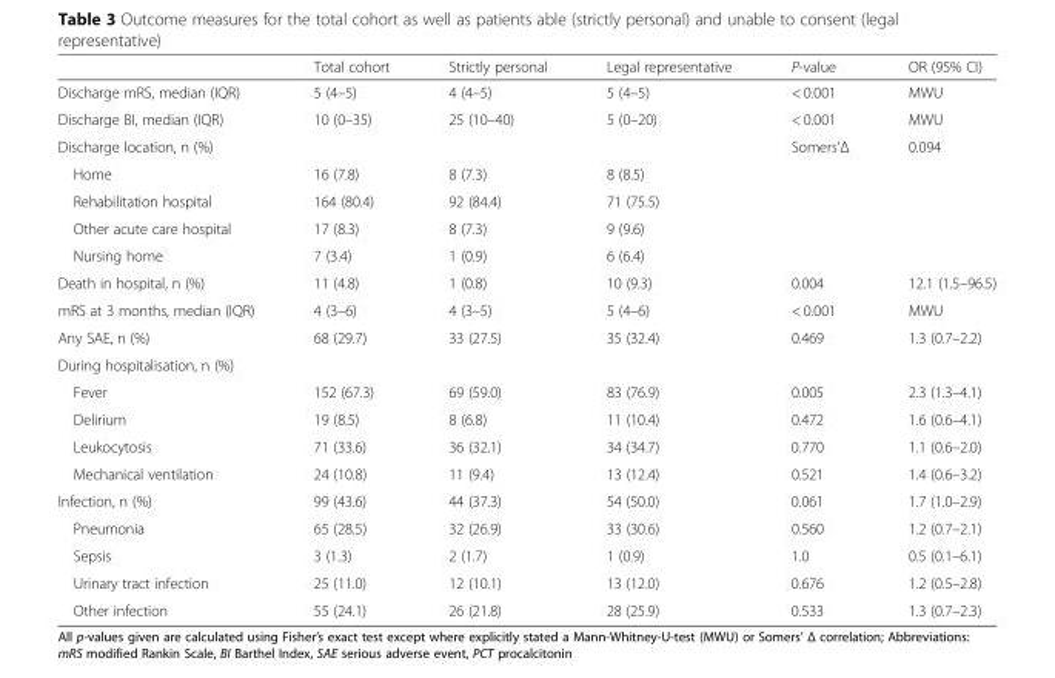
<table><thead><tr><td></td><td>Total cohort</td><td>Strictly personal</td><td>Legal representative</td><td>P-value</td><td>OR (95% CI)</td></tr></thead><tbody><tr><td>Discharge mRS, median (IQR)</td><td>5 (4–5)</td><td>4 (4–5)</td><td>5 (4–5)</td><td>&lt; 0.001</td><td>MWU</td></tr><tr><td>Discharge BI, median (IQR)</td><td>10 (0–35)</td><td>25 (10–40)</td><td>5 (0–20)</td><td>&lt; 0.001</td><td>MWU</td></tr><tr><td>Discharge location, n (%)</td><td></td><td></td><td></td><td>Somers‘Δ</td><td>0.094</td></tr><tr><td>Home</td><td>16 (7.8)</td><td>8 (7.3)</td><td>8 (8.5)</td><td></td><td></td></tr><tr><td>Rehabilitation hospital</td><td>164 (80.4)</td><td>92 (84.4)</td><td>71 (75.5)</td><td></td><td></td></tr><tr><td>Other acute care hospital</td><td>17 (8.3)</td><td>8 (7.3)</td><td>9 (9.6)</td><td></td><td></td></tr><tr><td>Nursing home</td><td>7 (3.4)</td><td>1 (0.9)</td><td>6 (6.4)</td><td></td><td></td></tr><tr><td>Death in hospital, n (%)</td><td>11 (4.8)</td><td>1 (0.8)</td><td>10 (9.3)</td><td>0.004</td><td>12.1 (1.5–96.5)</td></tr><tr><td>mRS at 3 months, median (IQR)</td><td>4 (3–6)</td><td>4 (3–5)</td><td>5 (4–6)</td><td>&lt; 0.001</td><td>MWU</td></tr><tr><td>Any SAE, n (%)</td><td>68 (29.7)</td><td>33 (27.5)</td><td>35 (32.4)</td><td>0.469</td><td>1.3 (0.7–2.2)</td></tr><tr><td colspan="6">During hospitalisation, n (%)</td></tr><tr><td>Fever</td><td>152 (67.3)</td><td>69 (59.0)</td><td>83 (76.9)</td><td>0.005</td><td>2.3 (1.3–4.1)</td></tr><tr><td>Delirium</td><td>19 (8.5)</td><td>8 (6.8)</td><td>11 (10.4)</td><td>0.472</td><td>1.6 (0.6–4.1)</td></tr><tr><td>Leukocytosis</td><td>71 (33.6)</td><td>36 (32.1)</td><td>34 (34.7)</td><td>0.770</td><td>1.1 (0.6–2.0)</td></tr><tr><td>Mechanical ventilation</td><td>24 (10.8)</td><td>11 (9.4)</td><td>13 (12.4)</td><td>0.521</td><td>1.4 (0.6–3.2)</td></tr><tr><td>Infection, n (%)</td><td>99 (43.6)</td><td>44 (37.3)</td><td>54 (50.0)</td><td>0.061</td><td>1.7 (1.0–2.9)</td></tr><tr><td>Pneumonia</td><td>65 (28.5)</td><td>32 (26.9)</td><td>33 (30.6)</td><td>0.560</td><td>1.2 (0.7–2.1)</td></tr><tr><td>Sepsis</td><td>3 (1.3)</td><td>2 (1.7)</td><td>1 (0.9)</td><td>1.0</td><td>0.5 (0.1–6.1)</td></tr><tr><td>Urinary tract infection</td><td>25 (11.0)</td><td>12 (10.1)</td><td>13 (12.0)</td><td>0.676</td><td>1.2 (0.5–2.8)</td></tr><tr><td>Other infection</td><td>55 (24.1)</td><td>26 (21.8)</td><td>28 (25.9)</td><td>0.533</td><td>1.3 (0.7–2.3)</td></tr></tbody></table>